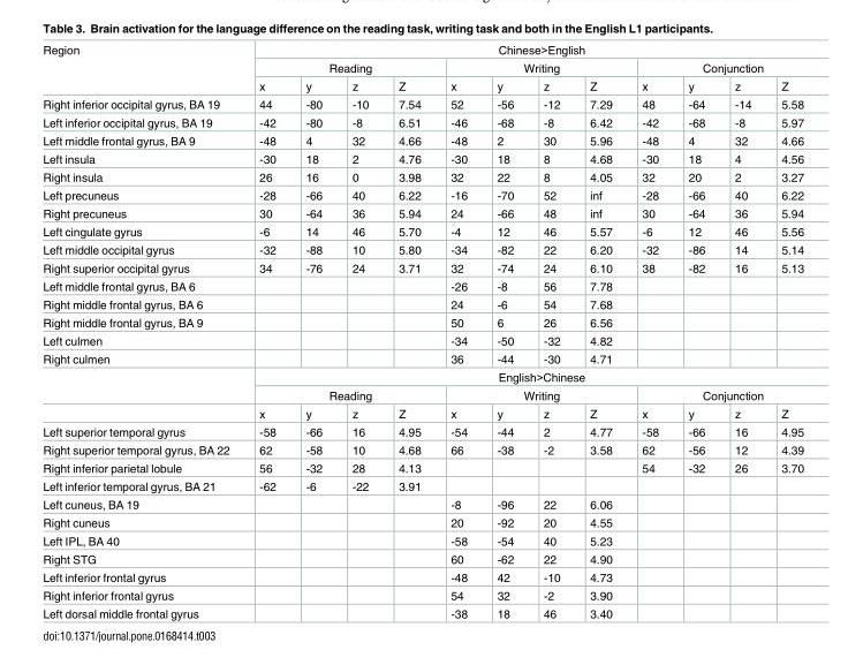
<table><tbody><tr><td rowspan="3">Region</td><td colspan="12">Chinese&gt;English</td></tr><tr><td colspan="4">Reading</td><td colspan="4">Writing</td><td colspan="4">Conjunction</td></tr><tr><td>x</td><td>y</td><td>z</td><td>Z</td><td>x</td><td>y</td><td>z</td><td>Z</td><td>x</td><td>y</td><td>z</td><td>Z</td></tr><tr><td>Right inferior occipital gyrus, BA 19</td><td>44</td><td>-80</td><td>-10</td><td>7.54</td><td>52</td><td>-56</td><td>-12</td><td>7.29</td><td>48</td><td>-64</td><td>-14</td><td>5.58</td></tr><tr><td>Left inferior occipital gyrus, BA 19</td><td>-42</td><td>-80</td><td>-8</td><td>6.51</td><td>-46</td><td>-68</td><td>-8</td><td>6.42</td><td>-42</td><td>-68</td><td>-8</td><td>5.97</td></tr><tr><td>Left middle frontal gyrus, BA 9</td><td>-48</td><td>4</td><td>32</td><td>4.66</td><td>-48</td><td>2</td><td>30</td><td>5.96</td><td>-48</td><td>4</td><td>32</td><td>4.66</td></tr><tr><td>Left insula</td><td>-30</td><td>18</td><td>2</td><td>4.76</td><td>-30</td><td>18</td><td>8</td><td>4.68</td><td>-30</td><td>18</td><td>4</td><td>4.56</td></tr><tr><td>Right insula</td><td>26</td><td>16</td><td>0</td><td>3.98</td><td>32</td><td>22</td><td>8</td><td>4.05</td><td>32</td><td>20</td><td>2</td><td>3.27</td></tr><tr><td>Left precuneus</td><td>-28</td><td>-66</td><td>40</td><td>6.22</td><td>-16</td><td>-70</td><td>52</td><td>inf</td><td>-28</td><td>-66</td><td>40</td><td>6.22</td></tr><tr><td>Right precuneus</td><td>30</td><td>-64</td><td>36</td><td>5.94</td><td>24</td><td>-66</td><td>48</td><td>inf</td><td>30</td><td>-64</td><td>36</td><td>5.94</td></tr><tr><td>Left cingulate gyrus</td><td>-6</td><td>14</td><td>46</td><td>5.70</td><td>-4</td><td>12</td><td>46</td><td>5.57</td><td>-6</td><td>12</td><td>46</td><td>5.56</td></tr><tr><td>Left middle occipital gyrus</td><td>-32</td><td>-88</td><td>10</td><td>5.80</td><td>-34</td><td>-82</td><td>22</td><td>6.20</td><td>-32</td><td>-86</td><td>14</td><td>5.14</td></tr><tr><td>Right superior occipital gyrus</td><td>34</td><td>-76</td><td>24</td><td>3.71</td><td>32</td><td>-74</td><td>24</td><td>6.10</td><td>38</td><td>-82</td><td>16</td><td>5.13</td></tr><tr><td>Left middle frontal gyrus, BA 6</td><td></td><td></td><td></td><td></td><td>-26</td><td>-8</td><td>56</td><td>7.78</td><td></td><td></td><td></td><td></td></tr><tr><td>Right middle frontal gyrus, BA 6</td><td></td><td></td><td></td><td></td><td>24</td><td>-6</td><td>54</td><td>7.68</td><td></td><td></td><td></td><td></td></tr><tr><td>Right middle frontal gyrus, BA 9</td><td></td><td></td><td></td><td></td><td>50</td><td>6</td><td>26</td><td>6.56</td><td></td><td></td><td></td><td></td></tr><tr><td>Left culmen</td><td></td><td></td><td></td><td></td><td>-34</td><td>-50</td><td>-32</td><td>4.82</td><td></td><td></td><td></td><td></td></tr><tr><td rowspan="4">Right culmen</td><td></td><td></td><td></td><td></td><td>36</td><td>-44</td><td>-30</td><td>4.71</td><td></td><td></td><td></td><td></td></tr><tr><td colspan="12">English&gt;Chinese</td></tr><tr><td colspan="4">Reading</td><td colspan="4">Writing</td><td colspan="4">Conjunction</td></tr><tr><td>x</td><td>y</td><td>z</td><td>Z</td><td>x</td><td>y</td><td>z</td><td>Z</td><td>x</td><td>y</td><td>z</td><td>Z</td></tr><tr><td>Left superior temporal gyrus</td><td>-58</td><td>-66</td><td>16</td><td>4.95</td><td>-54</td><td>-44</td><td>2</td><td>4.77</td><td>-58</td><td>-66</td><td>16</td><td>4.95</td></tr><tr><td>Right superior temporal gyrus, BA 22</td><td>62</td><td>-58</td><td>10</td><td>4.68</td><td>66</td><td>-38</td><td>-2</td><td>3.58</td><td>62</td><td>-56</td><td>12</td><td>4.39</td></tr><tr><td>Right inferior parietal lobule</td><td>56</td><td>-32</td><td>28</td><td>4.13</td><td></td><td></td><td></td><td></td><td>54</td><td>-32</td><td>26</td><td>3.70</td></tr><tr><td>Left inferior temporal gyrus, BA 21</td><td>-62</td><td>-6</td><td>-22</td><td>3.91</td><td></td><td></td><td></td><td></td><td></td><td></td><td></td><td></td></tr><tr><td>Left cuneus, BA 19</td><td></td><td></td><td></td><td></td><td>-8</td><td>-96</td><td>22</td><td>6.06</td><td></td><td></td><td></td><td></td></tr><tr><td>Right cuneus</td><td></td><td></td><td></td><td></td><td>20</td><td>-92</td><td>20</td><td>4.55</td><td></td><td></td><td></td><td></td></tr><tr><td>Left IPL, BA 40</td><td></td><td></td><td></td><td></td><td>-58</td><td>-54</td><td>40</td><td>5.23</td><td></td><td></td><td></td><td></td></tr><tr><td>Right STG</td><td></td><td></td><td></td><td></td><td>60</td><td>-62</td><td>22</td><td>4.90</td><td></td><td></td><td></td><td></td></tr><tr><td>Left inferior frontal gyrus</td><td></td><td></td><td></td><td></td><td>-48</td><td>42</td><td>-10</td><td>4.73</td><td></td><td></td><td></td><td></td></tr><tr><td>Right inferior frontal gyrus</td><td></td><td></td><td></td><td></td><td>54</td><td>32</td><td>-2</td><td>3.90</td><td></td><td></td><td></td><td></td></tr><tr><td>Left dorsal middle frontal gyrus</td><td></td><td></td><td></td><td></td><td>-38</td><td>18</td><td>46</td><td>3.40</td><td></td><td></td><td></td><td></td></tr></tbody></table>